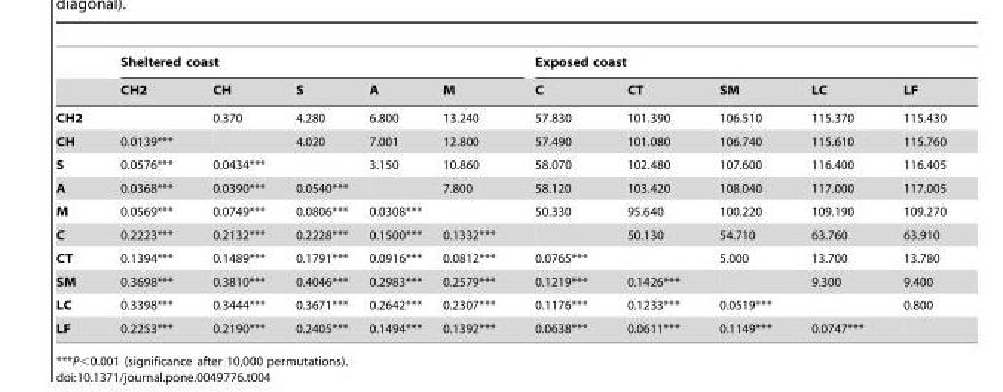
<table><thead><tr><td rowspan="2"></td><td colspan="5">Sheltered coast</td><td colspan="5">Exposed coast</td></tr><tr><td>CH2</td><td>CH</td><td>S</td><td>A</td><td>M</td><td>C</td><td>CT</td><td>SM</td><td>LC</td><td>LF</td></tr></thead><tbody><tr><td>CH2</td><td></td><td>0.370</td><td>4.280</td><td>6.800</td><td>13.240</td><td>57.830</td><td>101.390</td><td>106.510</td><td>115.370</td><td>115.430</td></tr><tr><td>CH</td><td>0.0139***</td><td></td><td>4.020</td><td>7.001</td><td>12.800</td><td>57.490</td><td>101.080</td><td>106.740</td><td>115.610</td><td>115.760</td></tr><tr><td>S</td><td>0.0576***</td><td>0.0434***</td><td></td><td>3.150</td><td>10.860</td><td>58.070</td><td>102.480</td><td>107.600</td><td>116.400</td><td>116.405</td></tr><tr><td>A</td><td>0.0368***</td><td>0.0390***</td><td>0.0540***</td><td></td><td>7.800</td><td>58.120</td><td>103.420</td><td>108.040</td><td>117.000</td><td>117.005</td></tr><tr><td>M</td><td>0.0569***</td><td>0.0749***</td><td>0.0806***</td><td>0.0308***</td><td></td><td>50.330</td><td>95.640</td><td>100.220</td><td>109.190</td><td>109.270</td></tr><tr><td>C</td><td>0.2223***</td><td>0.2132***</td><td>0.2228***</td><td>0.1500***</td><td>0.1332***</td><td></td><td>50.130</td><td>54.710</td><td>63.760</td><td>63.910</td></tr><tr><td>CT</td><td>0.1394***</td><td>0.1489***</td><td>0.1791***</td><td>0.0916***</td><td>0.0812***</td><td>0.0765***</td><td></td><td>5.000</td><td>13.700</td><td>13.780</td></tr><tr><td>SM</td><td>0.3698***</td><td>0.3810***</td><td>0.4046***</td><td>0.2983***</td><td>0.2579***</td><td>0.1219***</td><td>0.1426***</td><td></td><td>9.300</td><td>9.400</td></tr><tr><td>LC</td><td>0.3398***</td><td>0.3444***</td><td>0.3671***</td><td>0.2642***</td><td>0.2307***</td><td>0.1176***</td><td>0.1233***</td><td>0.0519***</td><td></td><td>0.800</td></tr><tr><td>LF</td><td>0.2253***</td><td>0.2190***</td><td>0.2405***</td><td>0.1494***</td><td>0.1392***</td><td>0.0638***</td><td>0.0611***</td><td>0.1149***</td><td>0.0747***</td><td></td></tr></tbody></table>